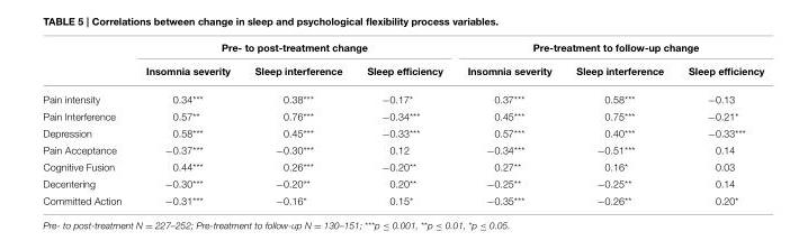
<table><thead><tr><td rowspan="2"></td><td colspan="3">Pre- to post-treatment change</td><td colspan="3">Pre-treatment to follow-up change</td></tr><tr><td>Insomnia severity</td><td>Sleep interference</td><td>Sleep efficiency</td><td>Insomnia severity</td><td>Sleep interference</td><td>Sleep efficiency</td></tr></thead><tbody><tr><td>Pain intensity</td><td>0.34***</td><td>0.38***</td><td>−0.17*</td><td>0.37***</td><td>0.58***</td><td>−0.13</td></tr><tr><td>Pain Interference</td><td>0.57**</td><td>0.76***</td><td>−0.34***</td><td>0.45***</td><td>0.75***</td><td>−0.21*</td></tr><tr><td>Depression</td><td>0.58***</td><td>0.45***</td><td>−0.33***</td><td>0.57***</td><td>0.40***</td><td>−0.33***</td></tr><tr><td>Pain Acceptance</td><td>−0.37***</td><td>−0.30***</td><td>0.12</td><td>−0.34***</td><td>−0.51***</td><td>0.14</td></tr><tr><td>Cognitive Fusion</td><td>0.44***</td><td>0.26***</td><td>−0.20**</td><td>0.27**</td><td>0.16*</td><td>0.03</td></tr><tr><td>Decentering</td><td>−0.30***</td><td>−0.20**</td><td>0.20**</td><td>−0.25**</td><td>−0.25**</td><td>0.14</td></tr><tr><td>Committed Action</td><td>−0.31***</td><td>−0.16*</td><td>0.15*</td><td>−0.35***</td><td>−0.26**</td><td>0.20*</td></tr></tbody></table>